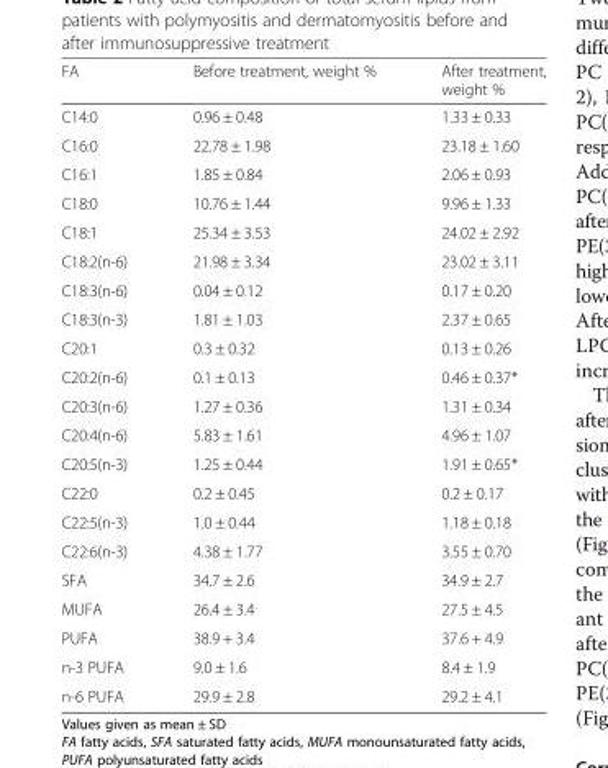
<table><thead><tr><td>FA</td><td>Before treatment, weight %</td><td>After treatment, weight %</td></tr></thead><tbody><tr><td>C14:0</td><td>0.96 ± 0.48</td><td>1.33 ± 0.33</td></tr><tr><td>C16:0</td><td>22.78 ± 1.98</td><td>23.18 ± 1.60</td></tr><tr><td>C16:1</td><td>1.85 ± 0.84</td><td>2.06 ± 0.93</td></tr><tr><td>C18:0</td><td>10.76 ± 1.44</td><td>9.96 ± 1.33</td></tr><tr><td>C18:1</td><td>25.34 ± 3.53</td><td>24.02 ± 2.92</td></tr><tr><td>C18:2(n-6)</td><td>21.98 ± 3.34</td><td>23.02 ± 3.11</td></tr><tr><td>C18:3(n-6)</td><td>0.04 ± 0.12</td><td>0.17 ± 0.20</td></tr><tr><td>C18:3(n-3)</td><td>1.81 ± 1.03</td><td>2.37 ± 0.65</td></tr><tr><td>C20:1</td><td>0.3 ± 0.32</td><td>0.13 ± 0.26</td></tr><tr><td>C20:2(n-6)</td><td>0.1 ± 0.13</td><td>0.46 ± 0.37*</td></tr><tr><td>C20:3(n-6)</td><td>1.27 ± 0.36</td><td>1.31 ± 0.34</td></tr><tr><td>C20:4(n-6)</td><td>5.83 ± 1.61</td><td>4.96 ± 1.07</td></tr><tr><td>C20:5(n-3)</td><td>1.25 ± 0.44</td><td>1.91 ± 0.65*</td></tr><tr><td>C22:0</td><td>0.2 ± 0.45</td><td>0.2 ± 0.17</td></tr><tr><td>C22:5(n-3)</td><td>1.0 ± 0.44</td><td>1.18 ± 0.18</td></tr><tr><td>C22:6(n-3)</td><td>4.38 ± 1.77</td><td>3.55 ± 0.70</td></tr><tr><td>SFA</td><td>34.7 ± 2.6</td><td>34.9 ± 2.7</td></tr><tr><td>MUFA</td><td>26.4 ± 3.4</td><td>27.5 ± 4.5</td></tr><tr><td>PUFA</td><td>38.9 + 3.4</td><td>37.6 + 4.9</td></tr><tr><td>n-3 PUFA</td><td>9.0 ± 1.6</td><td>8.4 ± 1.9</td></tr><tr><td>n-6 PUFA</td><td>29.9 ± 2.8</td><td>29.2 ± 4.1</td></tr></tbody></table>